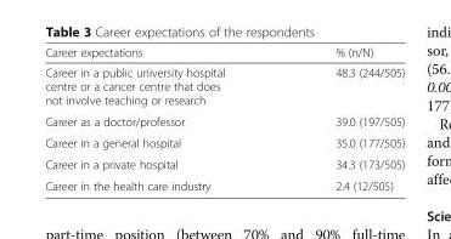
<table><thead><tr><td>Career expectations</td><td>% (n/N)</td></tr></thead><tbody><tr><td>Career in a public university hospital centre or a cancer centre that does not involve teaching or research</td><td>48.3 (244/505)</td></tr><tr><td>Career as a doctor/professor</td><td>39.0 (197/505)</td></tr><tr><td>Career in a general hospital</td><td>35.0 (177/505)</td></tr><tr><td>Career in a private hospital</td><td>34.3 (173/505)</td></tr><tr><td>Career in the health care industry</td><td>2.4 (12/505)</td></tr></tbody></table>